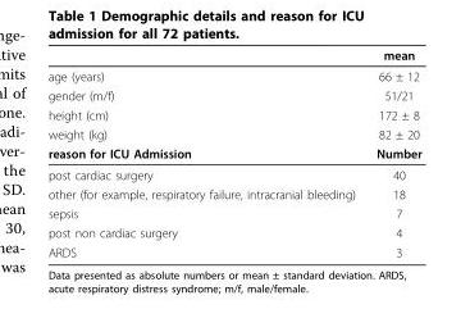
<table><thead><tr><td></td><td>mean</td></tr></thead><tbody><tr><td>age (years)</td><td>66 ± 12</td></tr><tr><td>gender (m/f)</td><td>51/21</td></tr><tr><td>height (cm)</td><td>172 ± 8</td></tr><tr><td>weight (kg)</td><td>82 ± 20</td></tr><tr><td>reason for ICU Admission</td><td>Number</td></tr><tr><td>post cardiac surgery</td><td>40</td></tr><tr><td>other (for example, respiratory failure, intracranial bleeding)</td><td>18</td></tr><tr><td>sepsis</td><td>7</td></tr><tr><td>post non cardiac surgery</td><td>4</td></tr><tr><td>ARDS</td><td>3</td></tr></tbody></table>